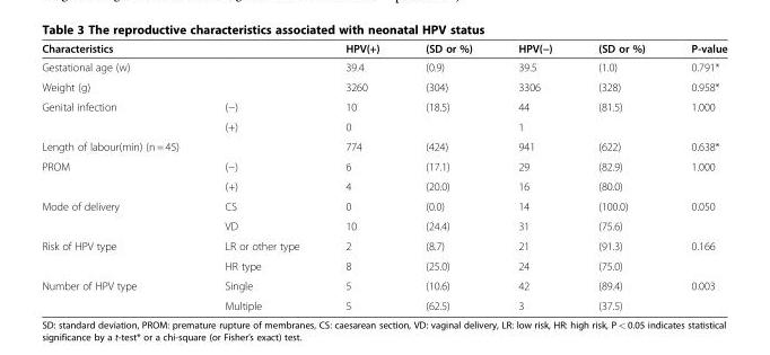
<table><thead><tr><td>Characteristics</td><td></td><td>HPV(+)</td><td>(SD or %)</td><td>HPV(−)</td><td>(SD or %)</td><td>P-value</td></tr></thead><tbody><tr><td>Gestational age (w)</td><td></td><td>39.4</td><td>(0.9)</td><td>39.5</td><td>(1.0)</td><td>0.791*</td></tr><tr><td>Weight (g)</td><td></td><td>3260</td><td>(304)</td><td>3306</td><td>(328)</td><td>0.958*</td></tr><tr><td rowspan="2">Genital infection</td><td>(−)</td><td>10</td><td>(18.5)</td><td>44</td><td>(81.5)</td><td>1.000</td></tr><tr><td>(+)</td><td>0</td><td></td><td>1</td><td></td><td></td></tr><tr><td>Length of labour(min) (n = 45)</td><td></td><td>774</td><td>(424)</td><td>941</td><td>(622)</td><td>0.638*</td></tr><tr><td rowspan="2">PROM</td><td>(−)</td><td>6</td><td>(17.1)</td><td>29</td><td>(82.9)</td><td>1.000</td></tr><tr><td>(+)</td><td>4</td><td>(20.0)</td><td>16</td><td>(80.0)</td><td></td></tr><tr><td rowspan="2">Mode of delivery</td><td>CS</td><td>0</td><td>(0.0)</td><td>14</td><td>(100.0)</td><td>0.050</td></tr><tr><td>VD</td><td>10</td><td>(24.4)</td><td>31</td><td>(75.6)</td><td></td></tr><tr><td rowspan="2">Risk of HPV type</td><td>LR or other type</td><td>2</td><td>(8.7)</td><td>21</td><td>(91.3)</td><td>0.166</td></tr><tr><td>HR type</td><td>8</td><td>(25.0)</td><td>24</td><td>(75.0)</td><td></td></tr><tr><td rowspan="2">Number of HPV type</td><td>Single</td><td>5</td><td>(10.6)</td><td>42</td><td>(89.4)</td><td>0.003</td></tr><tr><td>Multiple</td><td>5</td><td>(62.5)</td><td>3</td><td>(37.5)</td><td></td></tr></tbody></table>